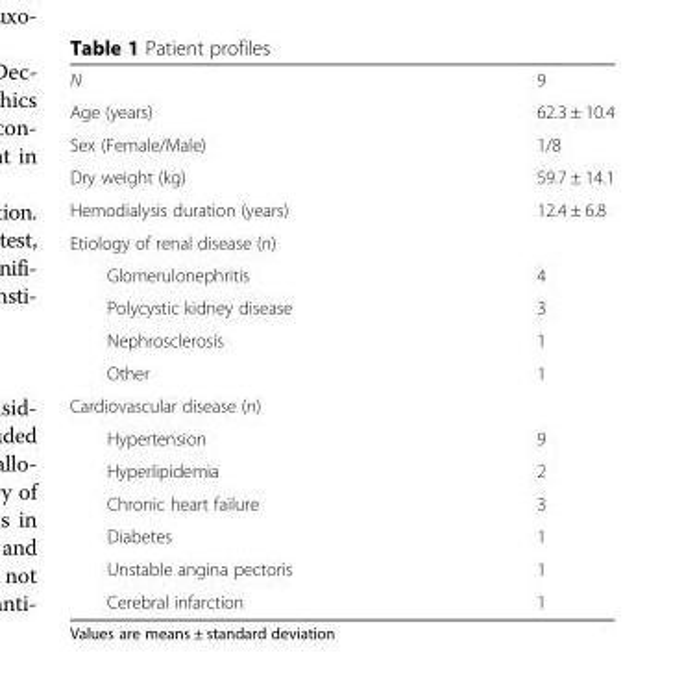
<table><tbody><tr><td>N</td><td>9</td></tr><tr><td>Age (years)</td><td>62.3 ± 10.4</td></tr><tr><td>Sex (Female/Male)</td><td>1/8</td></tr><tr><td>Dry weight (kg)</td><td>59.7 ± 14.1</td></tr><tr><td>Hemodialysis duration (years)</td><td>12.4 ± 6.8</td></tr><tr><td colspan="2">Etiology of renal disease (n)</td></tr><tr><td>Glomerulonephritis</td><td>4</td></tr><tr><td>Polycystic kidney disease</td><td>3</td></tr><tr><td>Nephrosclerosis</td><td>1</td></tr><tr><td>Other</td><td>1</td></tr><tr><td colspan="2">Cardiovascular disease (n)</td></tr><tr><td>Hypertension</td><td>9</td></tr><tr><td>Hyperlipidemia</td><td>2</td></tr><tr><td>Chronic heart failure</td><td>3</td></tr><tr><td>Diabetes</td><td>1</td></tr><tr><td>Unstable angina pectoris</td><td>1</td></tr><tr><td>Cerebral infarction</td><td>1</td></tr></tbody></table>